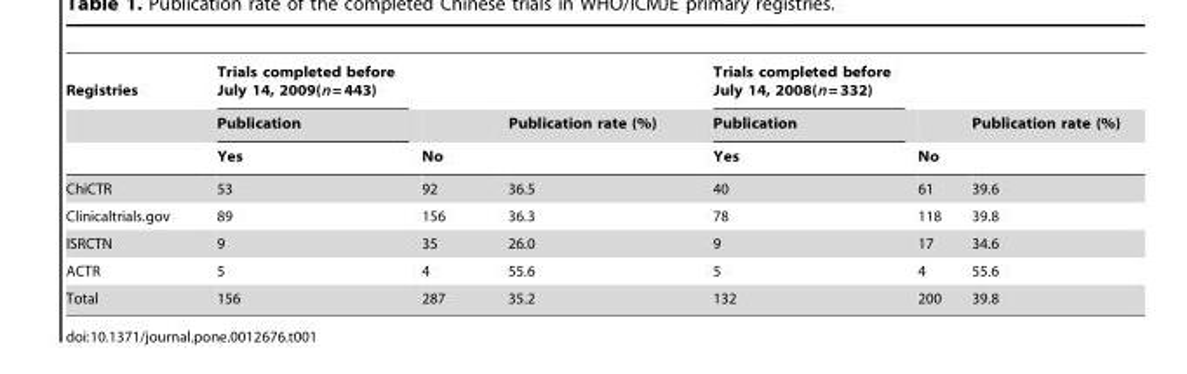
<table><thead><tr><td rowspan="3">Registries</td><td rowspan="3">Trials completed before July 14, 2009(n = 443) Publication Yes</td><td rowspan="3">No</td><td rowspan="3">Publication rate (%)</td><td rowspan="3">Trials completed before July 14, 2008(n = 332) Publication Yes</td><td rowspan="3">No</td><td rowspan="3">Publication rate (%)</td></tr><tr></tr><tr></tr></thead><tbody><tr><td>ChiCTR</td><td>53</td><td>92</td><td>36.5</td><td>40</td><td>61</td><td>39.6</td></tr><tr><td>Clinicaltrials.gov</td><td>89</td><td>156</td><td>36.3</td><td>78</td><td>118</td><td>39.8</td></tr><tr><td>ISRCTN</td><td>9</td><td>35</td><td>26.0</td><td>9</td><td>17</td><td>34.6</td></tr><tr><td>ACTR</td><td>5</td><td>4</td><td>55.6</td><td>5</td><td>4</td><td>55.6</td></tr><tr><td>Total</td><td>156</td><td>287</td><td>35.2</td><td>132</td><td>200</td><td>39.8</td></tr></tbody></table>